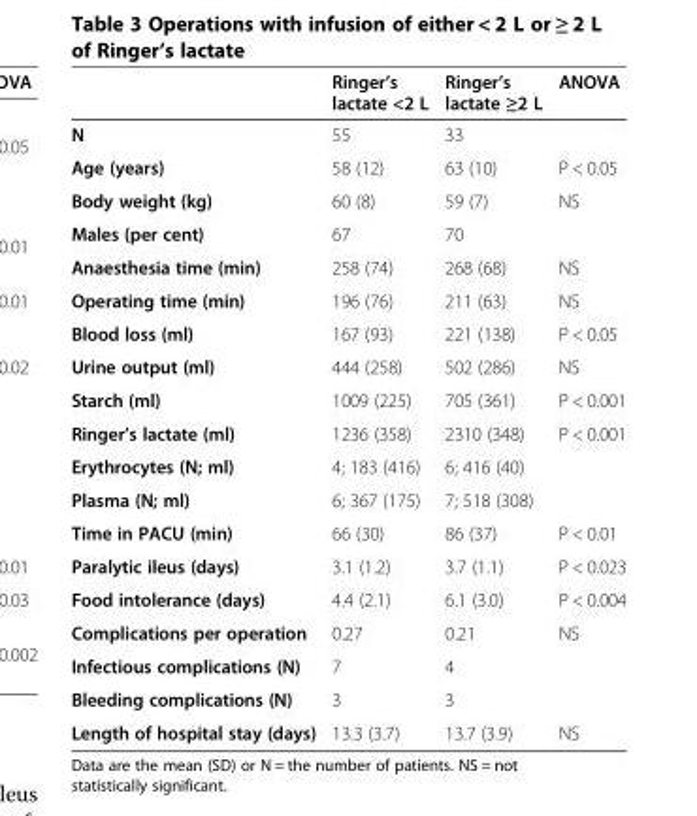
<table><thead><tr><td></td><td>Ringer’s lactate &lt;2 L</td><td>Ringer’s lactate ≥2 L</td><td>ANOVA</td></tr></thead><tbody><tr><td>N</td><td>55</td><td>33</td><td></td></tr><tr><td>Age (years)</td><td>58 (12)</td><td>63 (10)</td><td>P &lt; 0.05</td></tr><tr><td>Body weight (kg)</td><td>60 (8)</td><td>59 (7)</td><td>NS</td></tr><tr><td>Males (per cent)</td><td>67</td><td>70</td><td></td></tr><tr><td>Anaesthesia time (min)</td><td>258 (74)</td><td>268 (68)</td><td>NS</td></tr><tr><td>Operating time (min)</td><td>196 (76)</td><td>211 (63)</td><td>NS</td></tr><tr><td>Blood loss (ml)</td><td>167 (93)</td><td>221 (138)</td><td>P &lt; 0.05</td></tr><tr><td>Urine output (ml)</td><td>444 (258)</td><td>502 (286)</td><td>NS</td></tr><tr><td>Starch (ml)</td><td>1009 (225)</td><td>705 (361)</td><td>P &lt; 0.001</td></tr><tr><td>Ringer’s lactate (ml)</td><td>1236 (358)</td><td>2310 (348)</td><td>P &lt; 0.001</td></tr><tr><td>Erythrocytes (N; ml)</td><td>4; 183 (416)</td><td>6; 416 (40)</td><td></td></tr><tr><td>Plasma (N; ml)</td><td>6; 367 (175)</td><td>7; 518 (308)</td><td></td></tr><tr><td>Time in PACU (min)</td><td>66 (30)</td><td>86 (37)</td><td>P &lt; 0.01</td></tr><tr><td>Paralytic ileus (days)</td><td>3.1 (1.2)</td><td>3.7 (1.1)</td><td>P &lt; 0.023</td></tr><tr><td>Food intolerance (days)</td><td>4.4 (2.1)</td><td>6.1 (3.0)</td><td>P &lt; 0.004</td></tr><tr><td>Complications per operation</td><td>0.27</td><td>0.21</td><td>NS</td></tr><tr><td>Infectious complications (N)</td><td>7</td><td>4</td><td></td></tr><tr><td>Bleeding complications (N)</td><td>3</td><td>3</td><td></td></tr><tr><td>Length of hospital stay (days)</td><td>13.3 (3.7)</td><td>13.7 (3.9)</td><td>NS</td></tr></tbody></table>